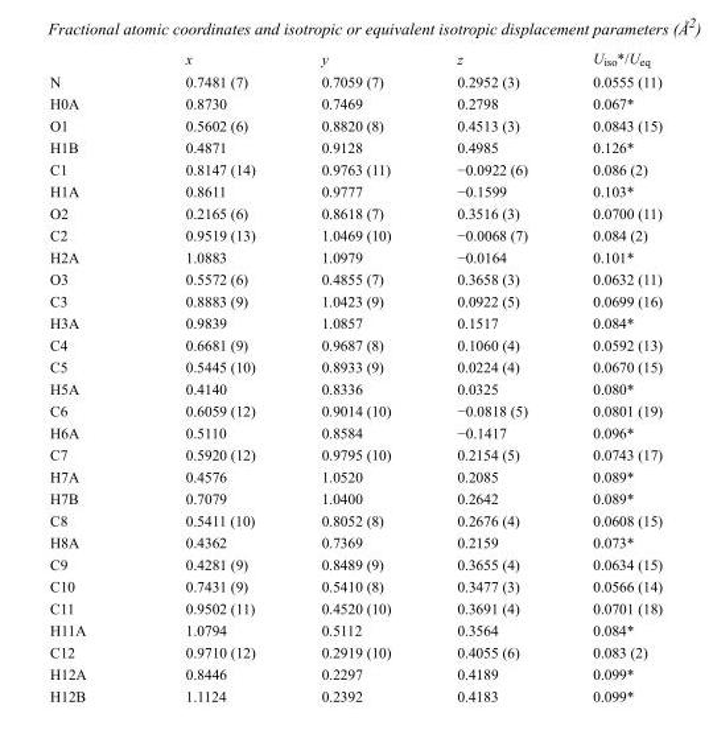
<table><thead><tr><td></td><td>x</td><td>y</td><td>z</td><td>U<sub>iso</sub>*/U<sub>eq</sub></td></tr></thead><tbody><tr><td>N</td><td>0.7481 (7)</td><td>0.7059 (7)</td><td>0.2952 (3)</td><td>0.0555 (11)</td></tr><tr><td>H0A</td><td>0.8730</td><td>0.7469</td><td>0.2798</td><td>0.067*</td></tr><tr><td>O1</td><td>0.5602 (6)</td><td>0.8820 (8)</td><td>0.4513 (3)</td><td>0.0843 (15)</td></tr><tr><td>H1B</td><td>0.4871</td><td>0.9128</td><td>0.4985</td><td>0.126*</td></tr><tr><td>C1</td><td>0.8147 (14)</td><td>0.9763 (11)</td><td>−0.0922 (6)</td><td>0.086 (2)</td></tr><tr><td>H1A</td><td>0.8611</td><td>0.9777</td><td>−0.1599</td><td>0.103*</td></tr><tr><td>O2</td><td>0.2165 (6)</td><td>0.8618 (7)</td><td>0.3516 (3)</td><td>0.0700 (11)</td></tr><tr><td>C2</td><td>0.9519 (13)</td><td>1.0469 (10)</td><td>−0.0068 (7)</td><td>0.084 (2)</td></tr><tr><td>H2A</td><td>1.0883</td><td>1.0979</td><td>−0.0164</td><td>0.101*</td></tr><tr><td>O3</td><td>0.5572 (6)</td><td>0.4855 (7)</td><td>0.3658 (3)</td><td>0.0632 (11)</td></tr><tr><td>C3</td><td>0.8883 (9)</td><td>1.0423 (9)</td><td>0.0922 (5)</td><td>0.0699 (16)</td></tr><tr><td>H3A</td><td>0.9839</td><td>1.0857</td><td>0.1517</td><td>0.084*</td></tr><tr><td>C4</td><td>0.6681 (9)</td><td>0.9687 (8)</td><td>0.1060 (4)</td><td>0.0592 (13)</td></tr><tr><td>C5</td><td>0.5445 (10)</td><td>0.8933 (9)</td><td>0.0224 (4)</td><td>0.0670 (15)</td></tr><tr><td>H5A</td><td>0.4140</td><td>0.8336</td><td>0.0325</td><td>0.080*</td></tr><tr><td>C6</td><td>0.6059 (12)</td><td>0.9014 (10)</td><td>−0.0818 (5)</td><td>0.0801 (19)</td></tr><tr><td>H6A</td><td>0.5110</td><td>0.8584</td><td>−0.1417</td><td>0.096*</td></tr><tr><td>C7</td><td>0.5920 (12)</td><td>0.9795 (10)</td><td>0.2154 (5)</td><td>0.0743 (17)</td></tr><tr><td>H7A</td><td>0.4576</td><td>1.0520</td><td>0.2085</td><td>0.089*</td></tr><tr><td>H7B</td><td>0.7079</td><td>1.0400</td><td>0.2642</td><td>0.089*</td></tr><tr><td>C8</td><td>0.5411 (10)</td><td>0.8052 (8)</td><td>0.2676 (4)</td><td>0.0608 (15)</td></tr><tr><td>H8A</td><td>0.4362</td><td>0.7369</td><td>0.2159</td><td>0.073*</td></tr><tr><td>C9</td><td>0.4281 (9)</td><td>0.8489 (9)</td><td>0.3655 (4)</td><td>0.0634 (15)</td></tr><tr><td>C10</td><td>0.7431 (9)</td><td>0.5410 (8)</td><td>0.3477 (3)</td><td>0.0566 (14)</td></tr><tr><td>C11</td><td>0.9502 (11)</td><td>0.4520 (10)</td><td>0.3691 (4)</td><td>0.0701 (18)</td></tr><tr><td>H11A</td><td>1.0794</td><td>0.5112</td><td>0.3564</td><td>0.084*</td></tr><tr><td>C12</td><td>0.9710 (12)</td><td>0.2919 (10)</td><td>0.4055 (6)</td><td>0.083 (2)</td></tr><tr><td>H12A</td><td>0.8446</td><td>0.2297</td><td>0.4189</td><td>0.099*</td></tr><tr><td>H12B</td><td>1.1124</td><td>0.2392</td><td>0.4183</td><td>0.099*</td></tr></tbody></table>